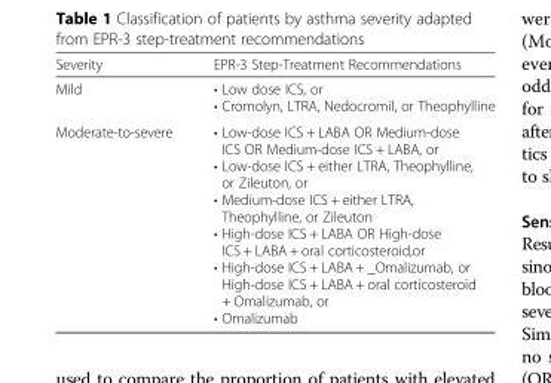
<table><thead><tr><td>Severity</td><td>EPR-3 Step-Treatment Recommendations</td></tr></thead><tbody><tr><td>Mild</td><td>• Low dose ICS, or • Cromolyn, LTRA, Nedocromil, or Theophylline</td></tr><tr><td>Moderate-to-severe</td><td>• Low-dose ICS + LABA OR Medium-dose ICS OR Medium-dose ICS + LABA, or • Low-dose ICS + either LTRA, Theophylline, or Zileuton, or • Medium-dose ICS + either LTRA, Theophylline, or Zileuton • High-dose ICS + LABA OR High-dose ICS + LABA + oral corticosteroid,or • High-dose ICS + LABA + _Omalizumab, or High-dose ICS + LABA + oral corticosteroid + Omalizumab, or • Omalizumab</td></tr></tbody></table>